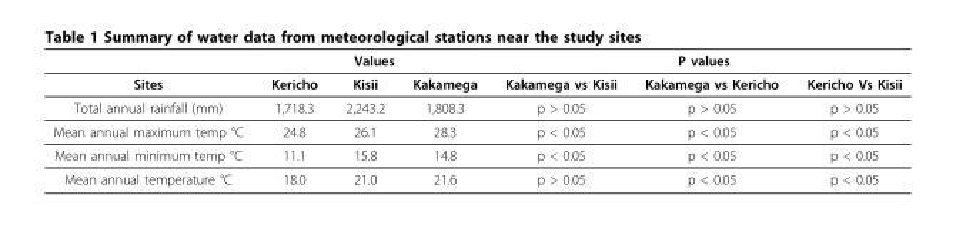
<table><thead><tr><td rowspan="2">Sites</td><td colspan="3">Values</td><td colspan="3">P values</td></tr><tr><td>Kericho</td><td>Kisii</td><td>Kakamega</td><td>Kakamega vs Kisii</td><td>Kakamega vs Kericho</td><td>Kericho Vs Kisii</td></tr></thead><tbody><tr><td>Total annual rainfall (mm)</td><td>1,718.3</td><td>2,243.2</td><td>1,808.3</td><td>p &gt; 0.05</td><td>p &gt; 0.05</td><td>p &gt; 0.05</td></tr><tr><td>Mean annual maximum temp °C</td><td>24.8</td><td>26.1</td><td>28.3</td><td>p &lt; 0.05</td><td>p &lt; 0.05</td><td>p &lt; 0.05</td></tr><tr><td>Mean annual minimum temp °C</td><td>11.1</td><td>15.8</td><td>14.8</td><td>p &lt; 0.05</td><td>p &lt; 0.05</td><td>p &lt; 0.05</td></tr><tr><td>Mean annual temperature °C</td><td>18.0</td><td>21.0</td><td>21.6</td><td>p &gt; 0.05</td><td>p &lt; 0.05</td><td>p &lt; 0.05</td></tr></tbody></table>